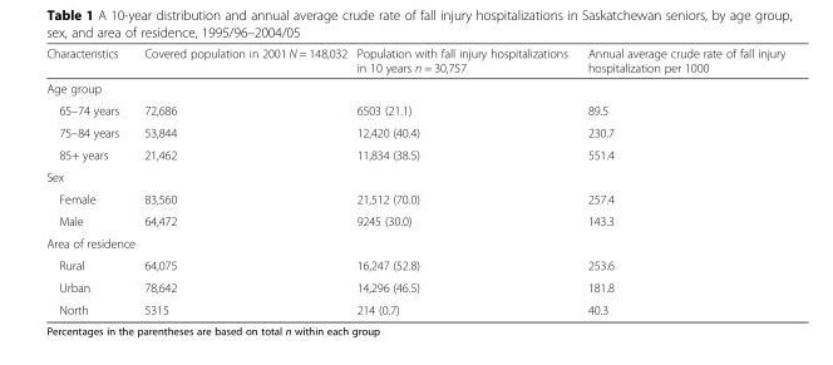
<table><thead><tr><td>Characteristics</td><td>Covered population in 2001 N = 148,032</td><td>Population with fall injury hospitalizations in 10 years n = 30,757</td><td>Annual average crude rate of fall injury hospitalization per 1000</td></tr></thead><tbody><tr><td colspan="4">Age group</td></tr><tr><td>65–74 years</td><td>72,686</td><td>6503 (21.1)</td><td>89.5</td></tr><tr><td>75–84 years</td><td>53,844</td><td>12,420 (40.4)</td><td>230.7</td></tr><tr><td>85+ years</td><td>21,462</td><td>11,834 (38.5)</td><td>551.4</td></tr><tr><td colspan="4">Sex</td></tr><tr><td>Female</td><td>83,560</td><td>21,512 (70.0)</td><td>257.4</td></tr><tr><td>Male</td><td>64,472</td><td>9245 (30.0)</td><td>143.3</td></tr><tr><td colspan="4">Area of residence</td></tr><tr><td>Rural</td><td>64,075</td><td>16,247 (52.8)</td><td>253.6</td></tr><tr><td>Urban</td><td>78,642</td><td>14,296 (46.5)</td><td>181.8</td></tr><tr><td>North</td><td>5315</td><td>214 (0.7)</td><td>40.3</td></tr></tbody></table>